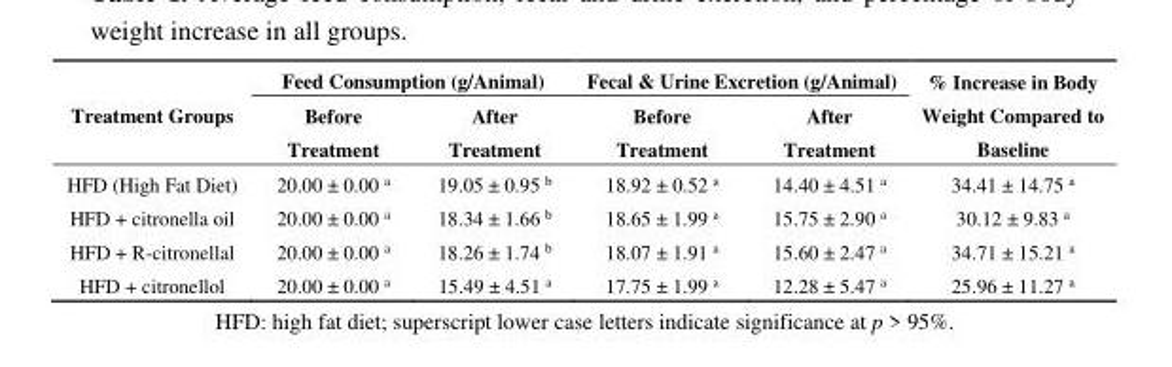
<table><thead><tr><td rowspan="2">Treatment Groups</td><td colspan="2">Feed Consumption (g/Animal)</td><td colspan="2">Fecal &amp; Urine Excretion (g/Animal)</td><td rowspan="2">% Increase in Body Weight Compared to Baseline</td></tr><tr><td>Before Treatment</td><td>After Treatment</td><td>Before Treatment</td><td>After Treatment</td></tr></thead><tbody><tr><td>HFD (High Fat Diet)</td><td>20.00 ± 0.00 <sup>a</sup></td><td>19.05 ± 0.95 <sup>b</sup></td><td>18.92 ± 0.52 <sup>a</sup></td><td>14.40 ± 4.51 <sup>a</sup></td><td>34.41 ± 14.75 <sup>a</sup></td></tr><tr><td>HFD + citronella oil</td><td>20.00 ± 0.00 <sup>a</sup></td><td>18.34 ± 1.66 <sup>b</sup></td><td>18.65 ± 1.99 <sup>a</sup></td><td>15.75 ± 2.90 <sup>a</sup></td><td>30.12 ± 9.83 <sup>a</sup></td></tr><tr><td>HFD + R-citronellal</td><td>20.00 ± 0.00 <sup>a</sup></td><td>18.26 ± 1.74 <sup>b</sup></td><td>18.07 ± 1.91 <sup>a</sup></td><td>15.60 ± 2.47 <sup>a</sup></td><td>34.71 ± 15.21 <sup>a</sup></td></tr><tr><td>HFD + citronellol</td><td>20.00 ± 0.00 <sup>a</sup></td><td>15.49 ± 4.51 <sup>a</sup></td><td>17.75 ± 1.99 <sup>a</sup></td><td>12.28 ± 5.47 <sup>a</sup></td><td>25.96 ± 11.27 <sup>a</sup></td></tr></tbody></table>